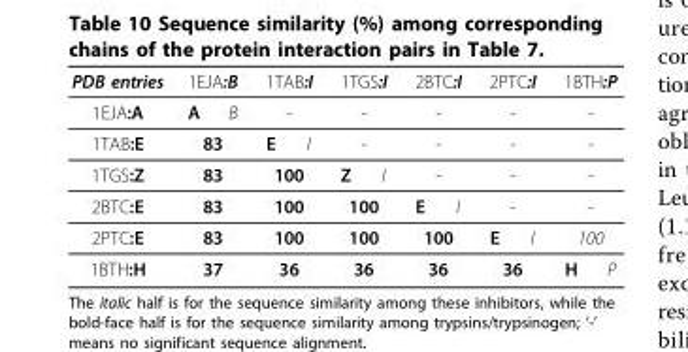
<table><thead><tr><td>PDB entries</td><td colspan="2">1EJA:B</td><td colspan="2">1TAB:I</td><td colspan="2">1TGS:I</td><td colspan="2">2BTC:I</td><td colspan="2">2PTC:I</td><td colspan="2">1BTH:P</td></tr></thead><tbody><tr><td>1EJA:A</td><td>A</td><td>B</td><td colspan="2">-</td><td colspan="2">-</td><td colspan="2">-</td><td colspan="2">-</td><td colspan="2">-</td></tr><tr><td>1TAB:E</td><td colspan="2">83</td><td>E</td><td>I</td><td colspan="2">-</td><td colspan="2">-</td><td colspan="2">-</td><td colspan="2">-</td></tr><tr><td>1TGS:Z</td><td colspan="2">83</td><td colspan="2">100</td><td>Z</td><td>I</td><td colspan="2">-</td><td colspan="2">-</td><td colspan="2">-</td></tr><tr><td>2BTC:E</td><td colspan="2">83</td><td colspan="2">100</td><td colspan="2">100</td><td>E</td><td>I</td><td colspan="2">-</td><td colspan="2">-</td></tr><tr><td>2PTC:E</td><td colspan="2">83</td><td colspan="2">100</td><td colspan="2">100</td><td colspan="2">100</td><td>E</td><td>I</td><td colspan="2">100</td></tr><tr><td>1BTH:H</td><td colspan="2">37</td><td colspan="2">36</td><td colspan="2">36</td><td colspan="2">36</td><td colspan="2">36</td><td>H</td><td>P</td></tr></tbody></table>